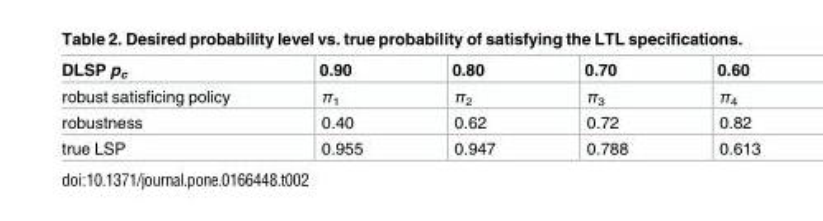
<table><thead><tr><td>DLSP p<sub>c</sub></td><td>0.90</td><td>0.80</td><td>0.70</td><td>0.60</td></tr></thead><tbody><tr><td>robust satisficing policy</td><td>π<sub>1</sub></td><td>π<sub>2</sub></td><td>π<sub>3</sub></td><td>π<sub>4</sub></td></tr><tr><td>robustness</td><td>0.40</td><td>0.62</td><td>0.72</td><td>0.82</td></tr><tr><td>true LSP</td><td>0.955</td><td>0.947</td><td>0.788</td><td>0.613</td></tr></tbody></table>